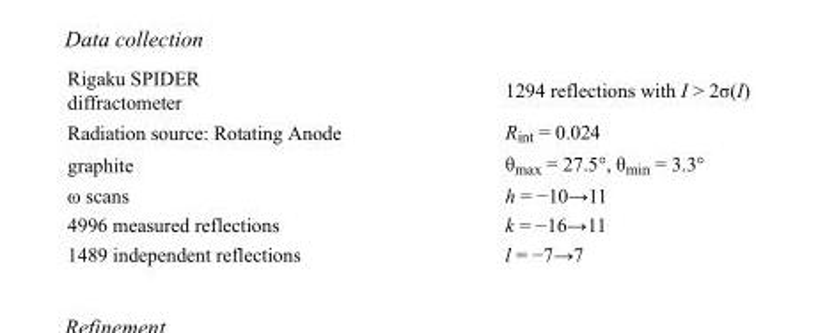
<table><tbody><tr><td>Rigaku SPIDER diffractometer</td><td>1294 reflections with I &gt; 2σ(I)</td></tr><tr><td>Radiation source: Rotating Anode</td><td>R<sub>int</sub> = 0.024</td></tr><tr><td>graphite</td><td>θ<sub>max</sub> = 27.5°, θ<sub>min</sub> = 3.3°</td></tr><tr><td>ω scans</td><td>h = −10→11</td></tr><tr><td>4996 measured reflections</td><td>k = −16→11</td></tr><tr><td>1489 independent reflections</td><td>l = −7→7</td></tr></tbody></table>